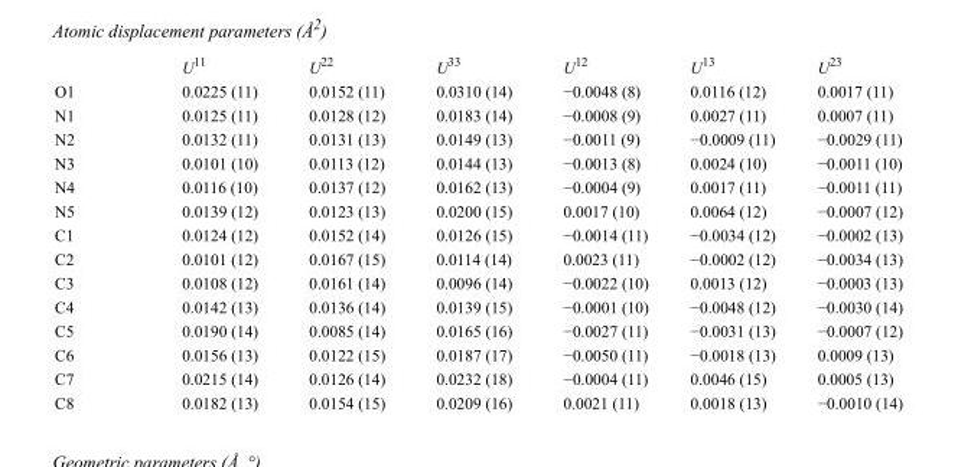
<table><thead><tr><td></td><td>U<sup>11</sup></td><td>U<sup>22</sup></td><td>U<sup>33</sup></td><td>U<sup>12</sup></td><td>U<sup>13</sup></td><td>U<sup>23</sup></td></tr></thead><tbody><tr><td>O1</td><td>0.0225 (11)</td><td>0.0152 (11)</td><td>0.0310 (14)</td><td>−0.0048 (8)</td><td>0.0116 (12)</td><td>0.0017 (11)</td></tr><tr><td>N1</td><td>0.0125 (11)</td><td>0.0128 (12)</td><td>0.0183 (14)</td><td>−0.0008 (9)</td><td>0.0027 (11)</td><td>0.0007 (11)</td></tr><tr><td>N2</td><td>0.0132 (11)</td><td>0.0131 (13)</td><td>0.0149 (13)</td><td>−0.0011 (9)</td><td>−0.0009 (11)</td><td>−0.0029 (11)</td></tr><tr><td>N3</td><td>0.0101 (10)</td><td>0.0113 (12)</td><td>0.0144 (13)</td><td>−0.0013 (8)</td><td>0.0024 (10)</td><td>−0.0011 (10)</td></tr><tr><td>N4</td><td>0.0116 (10)</td><td>0.0137 (12)</td><td>0.0162 (13)</td><td>−0.0004 (9)</td><td>0.0017 (11)</td><td>−0.0011 (11)</td></tr><tr><td>N5</td><td>0.0139 (12)</td><td>0.0123 (13)</td><td>0.0200 (15)</td><td>0.0017 (10)</td><td>0.0064 (12)</td><td>−0.0007 (12)</td></tr><tr><td>C1</td><td>0.0124 (12)</td><td>0.0152 (14)</td><td>0.0126 (15)</td><td>−0.0014 (11)</td><td>−0.0034 (12)</td><td>−0.0002 (13)</td></tr><tr><td>C2</td><td>0.0101 (12)</td><td>0.0167 (15)</td><td>0.0114 (14)</td><td>0.0023 (11)</td><td>−0.0002 (12)</td><td>−0.0034 (13)</td></tr><tr><td>C3</td><td>0.0108 (12)</td><td>0.0161 (14)</td><td>0.0096 (14)</td><td>−0.0022 (10)</td><td>0.0013 (12)</td><td>−0.0003 (13)</td></tr><tr><td>C4</td><td>0.0142 (13)</td><td>0.0136 (14)</td><td>0.0139 (15)</td><td>−0.0001 (10)</td><td>−0.0048 (12)</td><td>−0.0030 (14)</td></tr><tr><td>C5</td><td>0.0190 (14)</td><td>0.0085 (14)</td><td>0.0165 (16)</td><td>−0.0027 (11)</td><td>−0.0031 (13)</td><td>−0.0007 (12)</td></tr><tr><td>C6</td><td>0.0156 (13)</td><td>0.0122 (15)</td><td>0.0187 (17)</td><td>−0.0050 (11)</td><td>−0.0018 (13)</td><td>0.0009 (13)</td></tr><tr><td>C7</td><td>0.0215 (14)</td><td>0.0126 (14)</td><td>0.0232 (18)</td><td>−0.0004 (11)</td><td>0.0046 (15)</td><td>0.0005 (13)</td></tr><tr><td>C8</td><td>0.0182 (13)</td><td>0.0154 (15)</td><td>0.0209 (16)</td><td>0.0021 (11)</td><td>0.0018 (13)</td><td>−0.0010 (14)</td></tr></tbody></table>